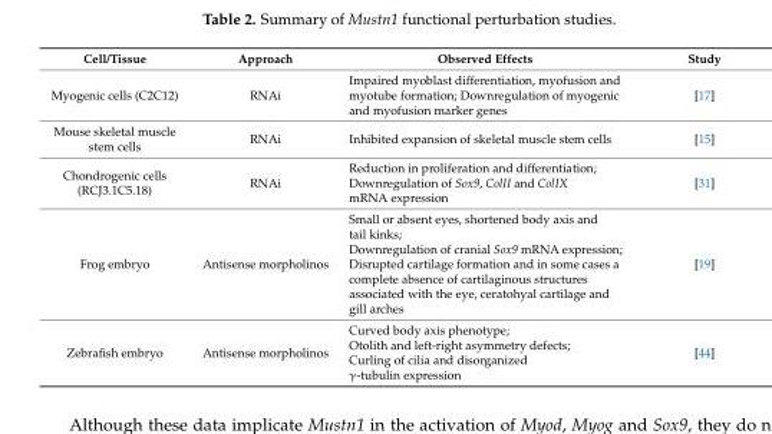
<table><thead><tr><td>Cell/Tissue</td><td>Approach</td><td>Observed Effects</td><td>Study</td></tr></thead><tbody><tr><td>Myogenic cells (C2C12)</td><td>RNAi</td><td>Impaired myoblast differentiation, myofusion and myotube formation; Downregulation of myogenic and myofusion marker genes</td><td>[17]</td></tr><tr><td>Mouse skeletal muscle stem cells</td><td>RNAi</td><td>Inhibited expansion of skeletal muscle stem cells</td><td>[15]</td></tr><tr><td>Chondrogenic cells (RCJ3.1C5.18)</td><td>RNAi</td><td>Reduction in proliferation and differentiation; Downregulation of Sox9, ColII and ColIX mRNA expression</td><td>[31]</td></tr><tr><td>Frog embryo</td><td>Antisense morpholinos</td><td>Small or absent eyes, shortened body axis and tail kinks; Downregulation of cranial Sox9 mRNA expression; Disrupted cartilage formation and in some cases a complete absence of cartilaginous structures associated with the eye, ceratohyal cartilage and gill arches</td><td>[19]</td></tr><tr><td>Zebrafish embryo</td><td>Antisense morpholinos</td><td>Curved body axis phenotype; Otolith and left-right asymmetry defects; Curling of cilia and disorganized γ-tubulin expression</td><td>[44]</td></tr></tbody></table>